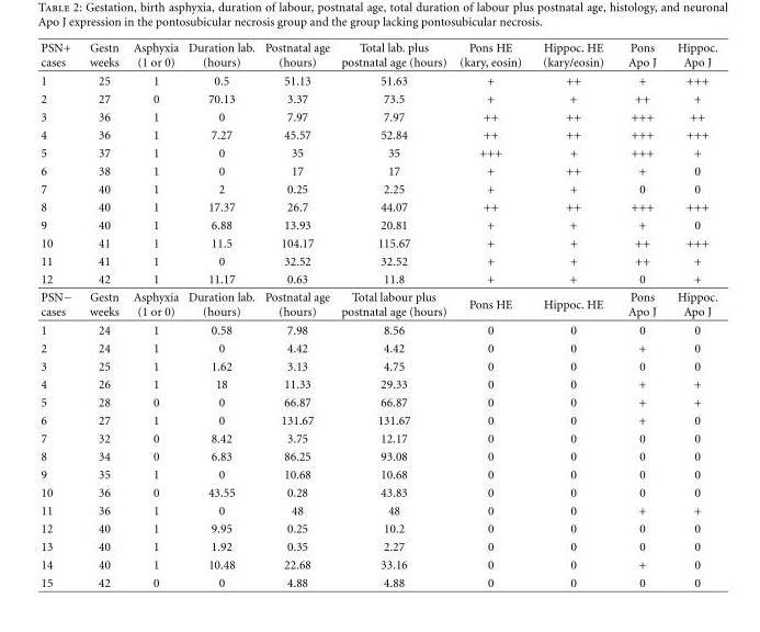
<table><thead><tr><td>PSN+ cases</td><td>Gestn weeks</td><td>Asphyxia (1 or 0)</td><td>Duration lab. (hours)</td><td>Postnatal age (hours)</td><td>Total lab. plus postnatal age (hours)</td><td>Pons HE (kary, eosin)</td><td>Hippoc. HE (kary/eosin)</td><td>Pons Apo J</td><td>Hippoc. Apo J</td></tr></thead><tbody><tr><td>1</td><td>25</td><td>1</td><td>0.5</td><td>51.13</td><td>51.63</td><td>+</td><td>++</td><td>+</td><td>+++</td></tr><tr><td>2</td><td>27</td><td>0</td><td>70.13</td><td>3.37</td><td>73.5</td><td>+</td><td>+</td><td>++</td><td>+</td></tr><tr><td>3</td><td>36</td><td>1</td><td>0</td><td>7.97</td><td>7.97</td><td>++</td><td>++</td><td>+++</td><td>++</td></tr><tr><td>4</td><td>36</td><td>1</td><td>7.27</td><td>45.57</td><td>52.84</td><td>++</td><td>++</td><td>+++</td><td>+++</td></tr><tr><td>5</td><td>37</td><td>1</td><td>0</td><td>35</td><td>35</td><td>+++</td><td>+</td><td>+++</td><td>+</td></tr><tr><td>6</td><td>38</td><td>1</td><td>0</td><td>17</td><td>17</td><td>+</td><td>++</td><td>+</td><td>0</td></tr><tr><td>7</td><td>40</td><td>1</td><td>2</td><td>0.25</td><td>2.25</td><td>+</td><td>+</td><td>0</td><td>0</td></tr><tr><td>8</td><td>40</td><td>1</td><td>17.37</td><td>26.7</td><td>44.07</td><td>++</td><td>++</td><td>+++</td><td>+++</td></tr><tr><td>9</td><td>40</td><td>1</td><td>6.88</td><td>13.93</td><td>20.81</td><td>+</td><td>+</td><td>+</td><td>0</td></tr><tr><td>10</td><td>41</td><td>1</td><td>11.5</td><td>104.17</td><td>115.67</td><td>+</td><td>+</td><td>++</td><td>+++</td></tr><tr><td>11</td><td>41</td><td>1</td><td>0</td><td>32.52</td><td>32.52</td><td>+</td><td>+</td><td>++</td><td>+</td></tr><tr><td>12</td><td>42</td><td>1</td><td>11.17</td><td>0.63</td><td>11.8</td><td>+</td><td>+</td><td>0</td><td>+</td></tr><tr><td>PSN− cases</td><td>Gestn weeks</td><td>Asphyxia (1 or 0)</td><td>Duration lab. (hours)</td><td>Postnatal age (hours)</td><td>Total labour plus postnatal age (hours)</td><td>Pons HE</td><td>Hippoc. HE</td><td>Pons Apo J</td><td>Hippoc. Apo J</td></tr><tr><td>1</td><td>24</td><td>1</td><td>0.58</td><td>7.98</td><td>8.56</td><td>0</td><td>0</td><td>0</td><td>0</td></tr><tr><td>2</td><td>24</td><td>1</td><td>0</td><td>4.42</td><td>4.42</td><td>0</td><td>0</td><td>+</td><td>0</td></tr><tr><td>3</td><td>25</td><td>1</td><td>1.62</td><td>3.13</td><td>4.75</td><td>0</td><td>0</td><td>0</td><td>0</td></tr><tr><td>4</td><td>26</td><td>1</td><td>18</td><td>11.33</td><td>29.33</td><td>0</td><td>0</td><td>+</td><td>+</td></tr><tr><td>5</td><td>28</td><td>0</td><td>0</td><td>66.87</td><td>66.87</td><td>0</td><td>0</td><td>+</td><td>+</td></tr><tr><td>6</td><td>27</td><td>1</td><td>0</td><td>131.67</td><td>131.67</td><td>0</td><td>0</td><td>+</td><td>0</td></tr><tr><td>7</td><td>32</td><td>0</td><td>8.42</td><td>3.75</td><td>12.17</td><td>0</td><td>0</td><td>0</td><td>0</td></tr><tr><td>8</td><td>34</td><td>0</td><td>6.83</td><td>86.25</td><td>93.08</td><td>0</td><td>0</td><td>0</td><td>0</td></tr><tr><td>9</td><td>35</td><td>1</td><td>0</td><td>10.68</td><td>10.68</td><td>0</td><td>0</td><td>0</td><td>0</td></tr><tr><td>10</td><td>36</td><td>0</td><td>43.55</td><td>0.28</td><td>43.83</td><td>0</td><td>0</td><td>0</td><td>0</td></tr><tr><td>11</td><td>36</td><td>1</td><td>0</td><td>48</td><td>48</td><td>0</td><td>0</td><td>+</td><td>+</td></tr><tr><td>12</td><td>40</td><td>1</td><td>9.95</td><td>0.25</td><td>10.2</td><td>0</td><td>0</td><td>0</td><td>0</td></tr><tr><td>13</td><td>40</td><td>1</td><td>1.92</td><td>0.35</td><td>2.27</td><td>0</td><td>0</td><td>0</td><td>0</td></tr><tr><td>14</td><td>40</td><td>1</td><td>10.48</td><td>22.68</td><td>33.16</td><td>0</td><td>0</td><td>+</td><td>0</td></tr><tr><td>15</td><td>42</td><td>0</td><td>0</td><td>4.88</td><td>4.88</td><td>0</td><td>0</td><td>0</td><td>0</td></tr></tbody></table>